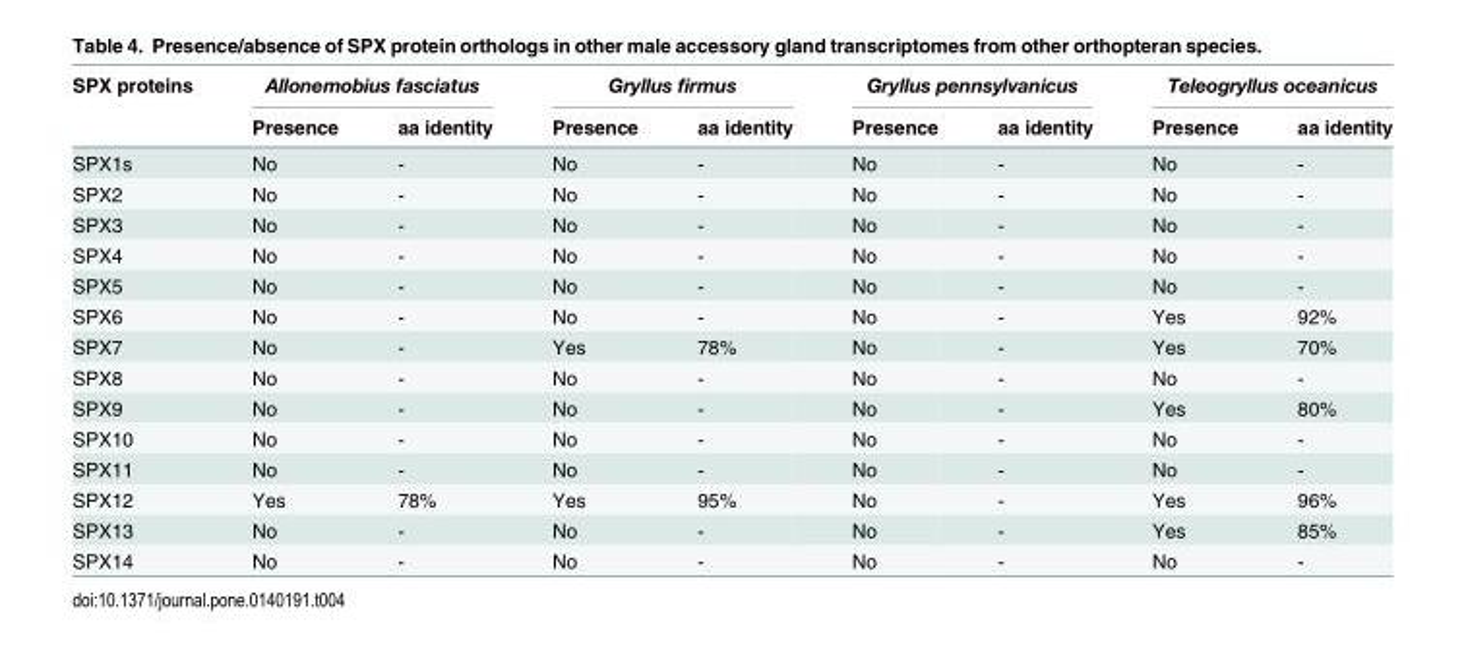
<table><thead><tr><td rowspan="2">SPX proteins</td><td colspan="2">Allonemobius fasciatus</td><td colspan="2">Gryllus firmus</td><td colspan="2">Gryllus pennsylvanicus</td><td colspan="2">Teleogryllus oceanicus</td></tr><tr><td>Presence</td><td>aa identity</td><td>Presence</td><td>aa identity</td><td>Presence</td><td>aa identity</td><td>Presence</td><td>aa identity</td></tr></thead><tbody><tr><td>SPX1s</td><td>No</td><td>-</td><td>No</td><td>-</td><td>No</td><td>-</td><td>No</td><td>-</td></tr><tr><td>SPX2</td><td>No</td><td>-</td><td>No</td><td>-</td><td>No</td><td>-</td><td>No</td><td>-</td></tr><tr><td>SPX3</td><td>No</td><td>-</td><td>No</td><td>-</td><td>No</td><td>-</td><td>No</td><td>-</td></tr><tr><td>SPX4</td><td>No</td><td>-</td><td>No</td><td>-</td><td>No</td><td>-</td><td>No</td><td>-</td></tr><tr><td>SPX5</td><td>No</td><td>-</td><td>No</td><td>-</td><td>No</td><td>-</td><td>No</td><td>-</td></tr><tr><td>SPX6</td><td>No</td><td>-</td><td>No</td><td>-</td><td>No</td><td>-</td><td>Yes</td><td>92%</td></tr><tr><td>SPX7</td><td>No</td><td>-</td><td>Yes</td><td>78%</td><td>No</td><td>-</td><td>Yes</td><td>70%</td></tr><tr><td>SPX8</td><td>No</td><td>-</td><td>No</td><td>-</td><td>No</td><td>-</td><td>No</td><td>-</td></tr><tr><td>SPX9</td><td>No</td><td>-</td><td>No</td><td>-</td><td>No</td><td>-</td><td>Yes</td><td>80%</td></tr><tr><td>SPX10</td><td>No</td><td>-</td><td>No</td><td>-</td><td>No</td><td>-</td><td>No</td><td>-</td></tr><tr><td>SPX11</td><td>No</td><td>-</td><td>No</td><td>-</td><td>No</td><td>-</td><td>No</td><td>-</td></tr><tr><td>SPX12</td><td>Yes</td><td>78%</td><td>Yes</td><td>95%</td><td>No</td><td>-</td><td>Yes</td><td>96%</td></tr><tr><td>SPX13</td><td>No</td><td>-</td><td>No</td><td>-</td><td>No</td><td>-</td><td>Yes</td><td>85%</td></tr><tr><td>SPX14</td><td>No</td><td>-</td><td>No</td><td>-</td><td>No</td><td>-</td><td>No</td><td>-</td></tr></tbody></table>